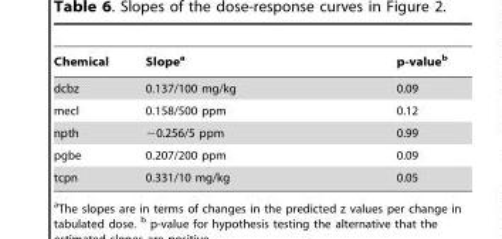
<table><thead><tr><td>Chemical</td><td>Slope<sup>a</sup></td><td>p-value<sup>b</sup></td></tr></thead><tbody><tr><td>dcbz</td><td>0.137/100 mg/kg</td><td>0.09</td></tr><tr><td>mecl</td><td>0.158/500 ppm</td><td>0.12</td></tr><tr><td>npth</td><td>−0.256/5 ppm</td><td>0.99</td></tr><tr><td>pgbe</td><td>0.207/200 ppm</td><td>0.09</td></tr><tr><td>tcpn</td><td>0.331/10 mg/kg</td><td>0.05</td></tr></tbody></table>